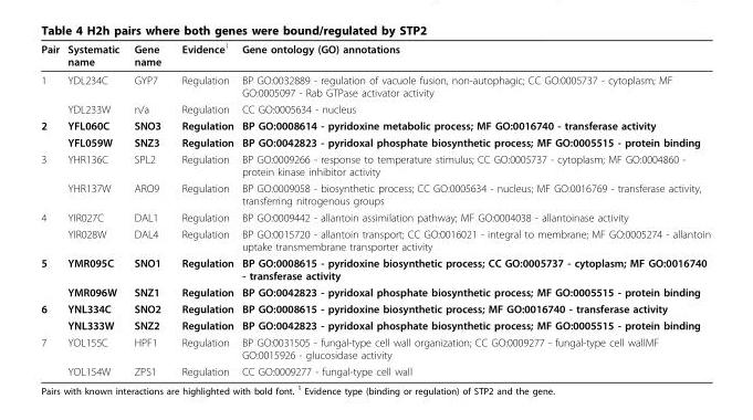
<table><thead><tr><td>Pair</td><td>Systematic name</td><td>Gene name</td><td>Evidence<sup>1</sup></td><td>Gene ontology (GO) annotations</td></tr></thead><tbody><tr><td rowspan="2">1</td><td>YDL234C</td><td>GYP7</td><td>Regulation</td><td>BP GO:0032889 - regulation of vacuole fusion, non-autophagic; CC GO:0005737 - cytoplasm; MF GO:0005097 - Rab GTPase activator activity</td></tr><tr><td>YDL233W</td><td>n/a</td><td>Regulation</td><td>CC GO:0005634 - nucleus</td></tr><tr><td rowspan="2">2</td><td>YFL060C</td><td>SNO3</td><td>Regulation</td><td>BP GO:0008614 - pyridoxine metabolic process; MF GO:0016740 - transferase activity</td></tr><tr><td>YFL059W</td><td>SNZ3</td><td>Regulation</td><td>BP GO:0042823 - pyridoxal phosphate biosynthetic process; MF GO:0005515 - protein binding</td></tr><tr><td rowspan="2">3</td><td>YHR136C</td><td>SPL2</td><td>Regulation</td><td>BP GO:0009266 - response to temperature stimulus; CC GO:0005737 - cytoplasm; MF GO:0004860 - protein kinase inhibitor activity</td></tr><tr><td>YHR137W</td><td>ARO9</td><td>Regulation</td><td>BP GO:0009058 - biosynthetic process; CC GO:0005634 - nucleus; MF GO:0016769 - transferase activity, transferring nitrogenous groups</td></tr><tr><td rowspan="2">4</td><td>YIR027C</td><td>DAL1</td><td>Regulation</td><td>BP GO:0009442 - allantoin assimilation pathway; MF GO:0004038 - allantoinase activity</td></tr><tr><td>YIR028W</td><td>DAL4</td><td>Regulation</td><td>BP GO:0015720 - allantoin transport; CC GO:0016021 - integral to membrane; MF GO:0005274 - allantoin uptake transmembrane transporter activity</td></tr><tr><td rowspan="2">5</td><td>YMR095C</td><td>SNO1</td><td>Regulation</td><td>BP GO:0008615 - pyridoxine biosynthetic process; CC GO:0005737 - cytoplasm; MF GO:0016740 - transferase activity</td></tr><tr><td>YMR096W</td><td>SNZ1</td><td>Regulation</td><td>BP GO:0042823 - pyridoxal phosphate biosynthetic process; MF GO:0005515 - protein binding</td></tr><tr><td rowspan="2">6</td><td>YNL334C</td><td>SNO2</td><td>Regulation</td><td>BP GO:0008615 - pyridoxine biosynthetic process; MF GO:0016740 - transferase activity</td></tr><tr><td>YNL333W</td><td>SNZ2</td><td>Regulation</td><td>BP GO:0042823 - pyridoxal phosphate biosynthetic process; MF GO:0005515 - protein binding</td></tr><tr><td rowspan="2">7</td><td>YOL155C</td><td>HPF1</td><td>Regulation</td><td>BP GO:0031505 - fungal-type cell wall organization; CC GO:0009277 - fungal-type cell wallMF GO:0015926 - glucosidase activity</td></tr><tr><td>YOL154W</td><td>ZPS1</td><td>Regulation</td><td>CC GO:0009277 - fungal-type cell wall</td></tr></tbody></table>